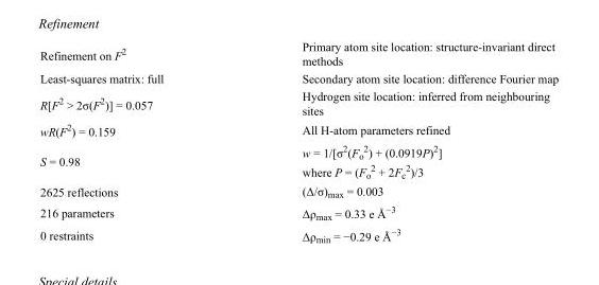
<table><tbody><tr><td>Refinement on F<sup>2</sup></td><td>Primary atom site location: structure-invariant direct methods</td></tr><tr><td>Least-squares matrix: full</td><td>Secondary atom site location: difference Fourier map</td></tr><tr><td>R[F<sup>2</sup> &gt; 2σ(F<sup>2</sup>)] = 0.057</td><td>Hydrogen site location: inferred from neighbouring sites</td></tr><tr><td>wR(F<sup>2</sup>) = 0.159</td><td>All H-atom parameters refined</td></tr><tr><td>S = 0.98</td><td>w = 1/[σ<sup>2</sup>(F<sub>o</sub> <sup>2</sup>) + (0.0919P)<sup>2</sup>] where P = (F<sub>o</sub> <sup>2</sup> + 2F<sub>c</sub> <sup>2</sup>)/3</td></tr><tr><td>2625 reflections</td><td>(Δ/σ)<sub>max</sub> = 0.003</td></tr><tr><td>216 parameters</td><td>Δρ<sub>max</sub> = 0.33 e Å<sup>−3</sup></td></tr><tr><td>0 restraints</td><td>Δρ<sub>min</sub> = −0.29 e Å<sup>−3</sup></td></tr></tbody></table>